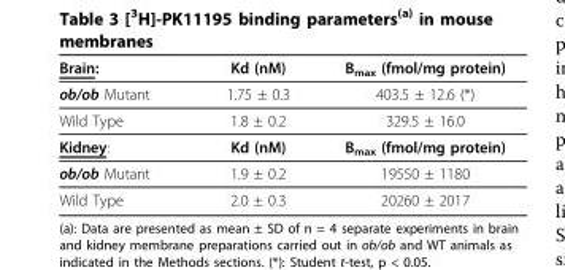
<table><thead><tr><td>Brain:</td><td>Kd (nM)</td><td>B<sub>max</sub> (fmol/mg protein)</td></tr></thead><tbody><tr><td>ob/ob Mutant</td><td>1.75 ± 0.3</td><td>403.5 ± 12.6 (*)</td></tr><tr><td>Wild Type</td><td>1.8 ± 0.2</td><td>329.5 ± 16.0</td></tr><tr><td>Kidney:</td><td>Kd (nM)</td><td>B<sub>max</sub> (fmol/mg protein)</td></tr><tr><td>ob/ob Mutant</td><td>1.9 ± 0.2</td><td>19550 ± 1180</td></tr><tr><td>Wild Type</td><td>2.0 ± 0.3</td><td>20260 ± 2017</td></tr></tbody></table>